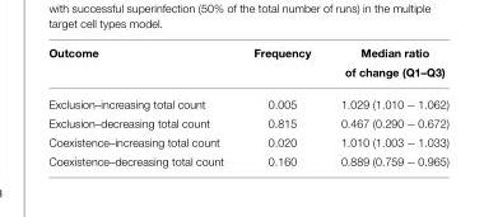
<table><thead><tr><td rowspan="2">Outcome</td><td rowspan="2">Frequency</td><td rowspan="2">Median ratio of change (Q1–Q3)</td></tr><tr></tr></thead><tbody><tr><td>Exclusion–increasing total count</td><td>0.005</td><td>1.029 (1.010 − 1.062)</td></tr><tr><td>Exclusion–decreasing total count</td><td>0.815</td><td>0.467 (0.290 − 0.672)</td></tr><tr><td>Coexistence–increasing total count</td><td>0.020</td><td>1.010 (1.003 − 1.033)</td></tr><tr><td>Coexistence–decreasing total count</td><td>0.160</td><td>0.889 (0.759 − 0.965)</td></tr></tbody></table>